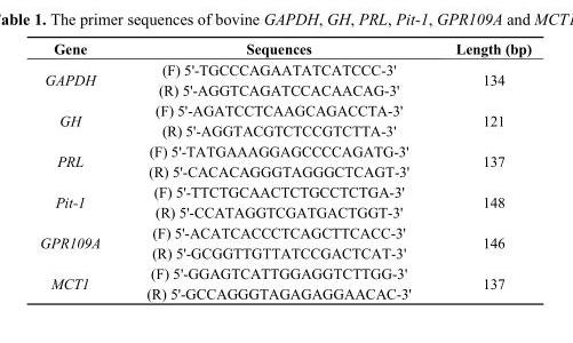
<table><thead><tr><td>Gene</td><td>Sequences</td><td>Length (bp)</td></tr></thead><tbody><tr><td rowspan="2">GAPDH</td><td>(F) 5&#x27;-TGCCCAGAATATCATCCC-3&#x27;</td><td rowspan="2">134</td></tr><tr><td>(R) 5&#x27;-AGGTCAGATCCACAACAG-3&#x27;</td></tr><tr><td rowspan="2">GH</td><td>(F) 5&#x27;-AGATCCTCAAGCAGACCTA-3&#x27;</td><td rowspan="2">121</td></tr><tr><td>(R) 5&#x27;-AGGTACGTCTCCGTCTTA-3&#x27;</td></tr><tr><td rowspan="2">PRL</td><td>(F) 5&#x27;-TATGAAAGGAGCCCCAGATG-3&#x27;</td><td rowspan="2">137</td></tr><tr><td>(R) 5&#x27;-CACACAGGGTAGGGCTCAGT-3&#x27;</td></tr><tr><td rowspan="2">Pit-1</td><td>(F) 5&#x27;-TTCTGCAACTCTGCCTCTGA-3&#x27;</td><td rowspan="2">148</td></tr><tr><td>(R) 5&#x27;-CCATAGGTCGATGACTGGT-3&#x27;</td></tr><tr><td rowspan="2">GPR109A</td><td>(F) 5&#x27;-ACATCACCCTCAGCTTCACC-3&#x27;</td><td rowspan="2">146</td></tr><tr><td>(R) 5&#x27;-GCGGTTGTTATCCGACTCAT-3&#x27;</td></tr><tr><td rowspan="2">MCT1</td><td>(F) 5&#x27;-GGAGTCATTGGAGGTCTTGG-3&#x27;</td><td rowspan="2">137</td></tr><tr><td>(R) 5&#x27;-GCCAGGGTAGAGAGGAACAC-3&#x27;</td></tr></tbody></table>